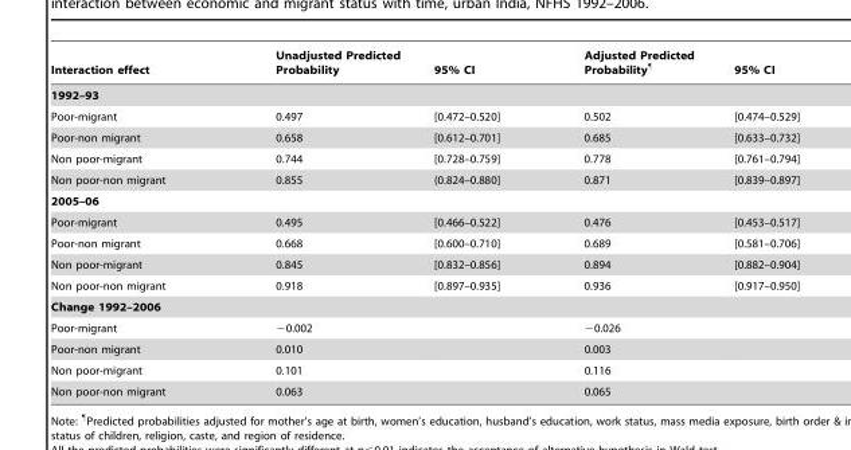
<table><thead><tr><td>Interaction effect</td><td>Unadjusted Predicted Probability</td><td>95% CI</td><td>Adjusted Predicted Probability<sup>¶</sup></td><td>95% CI</td></tr></thead><tbody><tr><td colspan="5">1992–93</td></tr><tr><td>Poor-migrant</td><td>0.497</td><td>[0.472–0.520]</td><td>0.502</td><td>[0.474–0.529]</td></tr><tr><td>Poor-non migrant</td><td>0.658</td><td>[0.612–0.701]</td><td>0.685</td><td>[0.633–0.732]</td></tr><tr><td>Non poor-migrant</td><td>0.744</td><td>[0.728–0.759]</td><td>0.778</td><td>[0.761–0.794]</td></tr><tr><td>Non poor-non migrant</td><td>0.855</td><td>(0.824–0.880]</td><td>0.871</td><td>[0.839–0.897]</td></tr><tr><td colspan="5">2005–06</td></tr><tr><td>Poor-migrant</td><td>0.495</td><td>[0.466–0.522]</td><td>0.476</td><td>[0.453–0.517]</td></tr><tr><td>Poor-non migrant</td><td>0.668</td><td>[0.600–0.710]</td><td>0.689</td><td>[0.581–0.706]</td></tr><tr><td>Non poor-migrant</td><td>0.845</td><td>[0.832–0.856]</td><td>0.894</td><td>[0.882–0.904]</td></tr><tr><td>Non poor-non migrant</td><td>0.918</td><td>[0.897–0.935]</td><td>0.936</td><td>[0.917–0.950]</td></tr><tr><td colspan="5">Change 1992–2006</td></tr><tr><td>Poor-migrant</td><td>−0.002</td><td></td><td>−0.026</td><td></td></tr><tr><td>Poor-non migrant</td><td>0.010</td><td></td><td>0.003</td><td></td></tr><tr><td>Non poor-migrant</td><td>0.101</td><td></td><td>0.116</td><td></td></tr><tr><td>Non poor-non migrant</td><td>0.063</td><td></td><td>0.065</td><td></td></tr></tbody></table>